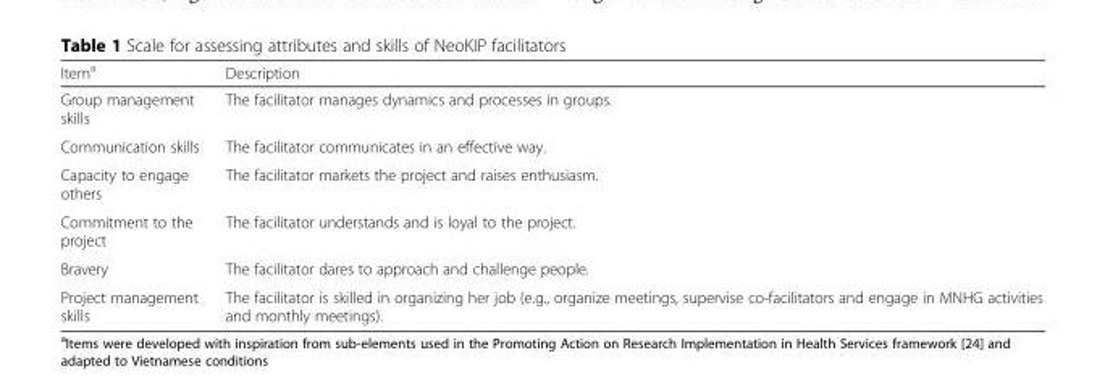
<table><thead><tr><td>Item<sup>a</sup></td><td>Description</td></tr></thead><tbody><tr><td>Group management skills</td><td>The facilitator manages dynamics and processes in groups.</td></tr><tr><td>Communication skills</td><td>The facilitator communicates in an effective way.</td></tr><tr><td>Capacity to engage others</td><td>The facilitator markets the project and raises enthusiasm.</td></tr><tr><td>Commitment to the project</td><td>The facilitator understands and is loyal to the project.</td></tr><tr><td>Bravery</td><td>The facilitator dares to approach and challenge people.</td></tr><tr><td>Project management skills</td><td>The facilitator is skilled in organizing her job (e.g., organize meetings, supervise co-facilitators and engage in MNHG activities and monthly meetings).</td></tr></tbody></table>